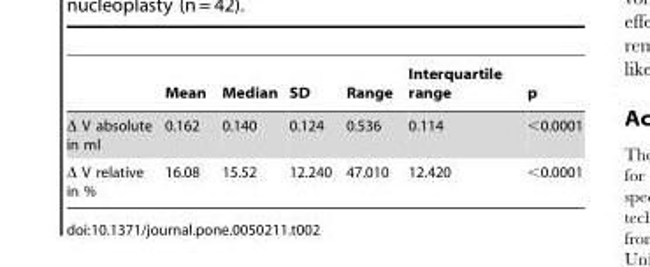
<table><thead><tr><td></td><td>Mean</td><td>Median</td><td>SD</td><td>Range</td><td>Interquartile range</td><td>p</td></tr></thead><tbody><tr><td>Δ V absolute in ml</td><td>0.162</td><td>0.140</td><td>0.124</td><td>0.536</td><td>0.114</td><td>&lt;0.0001</td></tr><tr><td>Δ V relative in %</td><td>16.08</td><td>15.52</td><td>12.240</td><td>47.010</td><td>12.420</td><td>&lt;0.0001</td></tr></tbody></table>